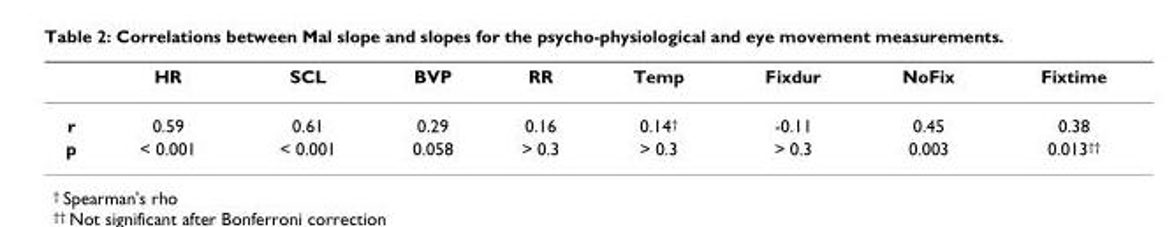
<table><thead><tr><td></td><td>HR</td><td>SCL</td><td>BVP</td><td>RR</td><td>Temp</td><td>Fixdur</td><td>NoFix</td><td>Fixtime</td></tr></thead><tbody><tr><td>r</td><td>0.59</td><td>0.61</td><td>0.29</td><td>0.16</td><td>0.14<sup>†</sup></td><td>-0.11</td><td>0.45</td><td>0.38</td></tr><tr><td>p</td><td>&lt; 0.001</td><td>&lt; 0.001</td><td>0.058</td><td>&gt; 0.3</td><td>&gt; 0.3</td><td>&gt; 0.3</td><td>0.003</td><td>0.013<sup>††</sup></td></tr></tbody></table>